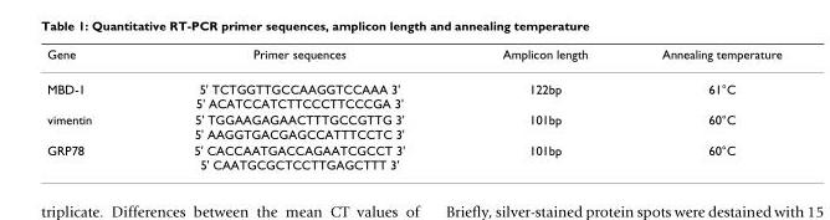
<table><thead><tr><td>Gene</td><td>Primer sequences</td><td>Amplicon length</td><td>Annealing temperature</td></tr></thead><tbody><tr><td>MBD-1</td><td>5&#x27; TCTGGTTGCCAAGGTCCAAA 3&#x27; 5&#x27; ACATCCATCTTCCCTTCCCGA 3&#x27;</td><td>122bp</td><td>61°C</td></tr><tr><td>vimentin</td><td>5&#x27; TGGAAGAGAACTTTGCCGTTG 3&#x27; 5&#x27; AAGGTGACGAGCCATTTCCTC 3&#x27;</td><td>101bp</td><td>60°C</td></tr><tr><td>GRP78</td><td>5&#x27; CACCAATGACCAGAATCGCCT 3&#x27; 5&#x27; CAATGCGCTCCTTGAGCTTT 3&#x27;</td><td>101bp</td><td>60°C</td></tr></tbody></table>